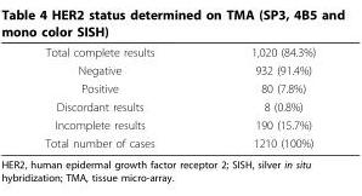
<table><tbody><tr><td>Total complete results</td><td>1,020 (84.3%)</td></tr><tr><td>Negative</td><td>932 (91.4%)</td></tr><tr><td>Positive</td><td>80 (7.8%)</td></tr><tr><td>Discordant results</td><td>8 (0.8%)</td></tr><tr><td>Incomplete results</td><td>190 (15.7%)</td></tr><tr><td>Total number of cases</td><td>1210 (100%)</td></tr></tbody></table>